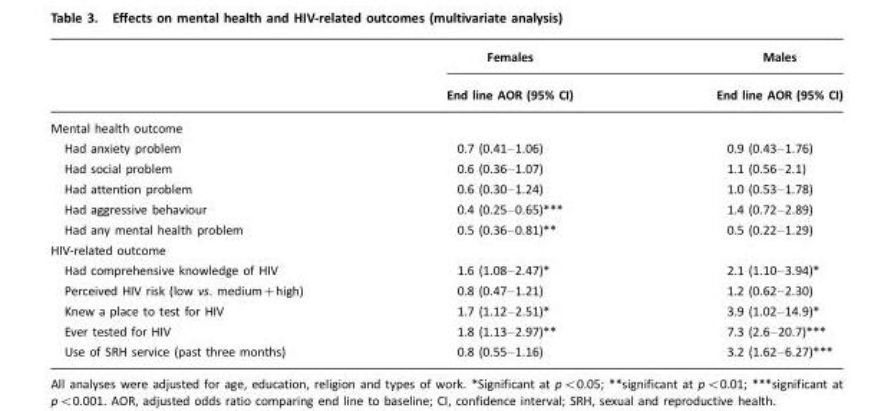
<table><thead><tr><td rowspan="2"></td><td rowspan="2">Females End line AOR (95% CI)</td><td rowspan="2">Males End line AOR (95% CI)</td></tr><tr></tr></thead><tbody><tr><td colspan="3">Mental health outcome</td></tr><tr><td>Had anxiety problem</td><td>0.7 (0.41–1.06)</td><td>0.9 (0.43–1.76)</td></tr><tr><td>Had social problem</td><td>0.6 (0.36–1.07)</td><td>1.1 (0.56–2.1)</td></tr><tr><td>Had attention problem</td><td>0.6 (0.30–1.24)</td><td>1.0 (0.53–1.78)</td></tr><tr><td>Had aggressive behaviour</td><td>0.4 (0.25–0.65)***</td><td>1.4 (0.72–2.89)</td></tr><tr><td>Had any mental health problem</td><td>0.5 (0.36–0.81)**</td><td>0.5 (0.22–1.29)</td></tr><tr><td colspan="3">HIV-related outcome</td></tr><tr><td>Had comprehensive knowledge of HIV</td><td>1.6 (1.08–2.47)*</td><td>2.1 (1.10–3.94)*</td></tr><tr><td>Perceived HIV risk (low vs. medium+high)</td><td>0.8 (0.47–1.21)</td><td>1.2 (0.62–2.30)</td></tr><tr><td>Knew a place to test for HIV</td><td>1.7 (1.12–2.51)*</td><td>3.9 (1.02–14.9)*</td></tr><tr><td>Ever tested for HIV</td><td>1.8 (1.13–2.97)**</td><td>7.3 (2.6–20.7)***</td></tr><tr><td>Use of SRH service (past three months)</td><td>0.8 (0.55–1.16)</td><td>3.2 (1.62–6.27)***</td></tr></tbody></table>